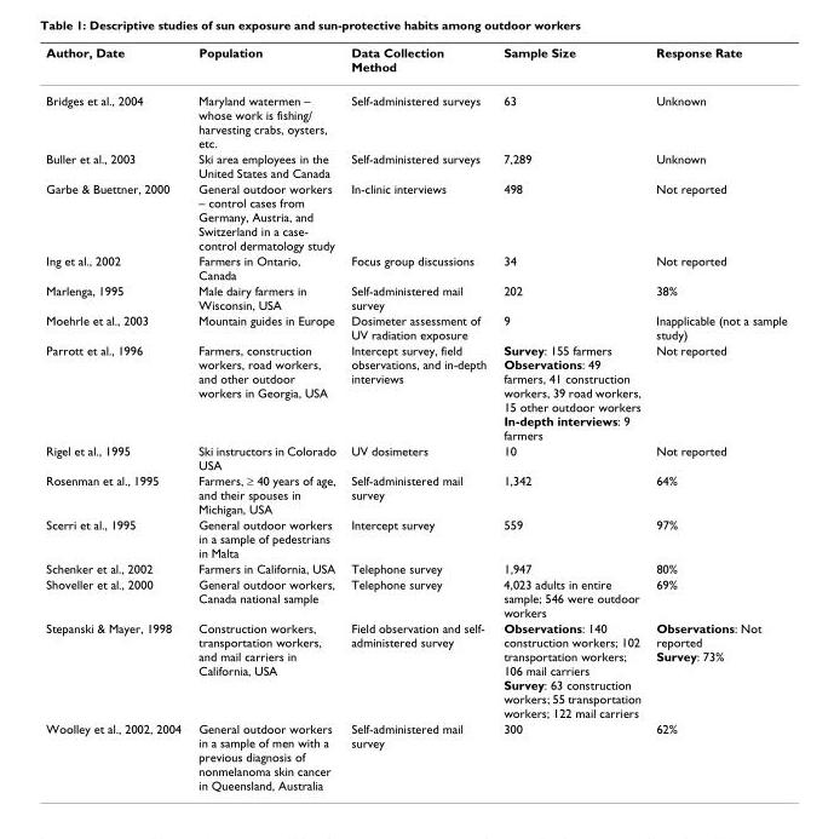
<table><thead><tr><td>Author, Date</td><td>Population</td><td>Data Collection Method</td><td>Sample Size</td><td>Response Rate</td></tr></thead><tbody><tr><td>Bridges et al., 2004</td><td>Maryland watermen – whose work is fishing/ harvesting crabs, oysters, etc.</td><td>Self-administered surveys</td><td>63</td><td>Unknown</td></tr><tr><td>Buller et al., 2003</td><td>Ski area employees in the United States and Canada</td><td>Self-administered surveys</td><td>7,289</td><td>Unknown</td></tr><tr><td>Garbe &amp; Buettner, 2000</td><td>General outdoor workers – control cases from Germany, Austria, and Switzerland in a case- control dermatology study</td><td>In-clinic interviews</td><td>498</td><td>Not reported</td></tr><tr><td>Ing et al., 2002</td><td>Farmers in Ontario, Canada</td><td>Focus group discussions</td><td>34</td><td>Not reported</td></tr><tr><td>Marlenga, 1995</td><td>Male dairy farmers in Wisconsin, USA</td><td>Self-administered mail survey</td><td>202</td><td>38%</td></tr><tr><td>Moehrle et al., 2003</td><td>Mountain guides in Europe</td><td>Dosimeter assessment of UV radiation exposure</td><td>9</td><td>Inapplicable (not a sample study)</td></tr><tr><td>Parrott et al., 1996</td><td>Farmers, construction workers, road workers, and other outdoor workers in Georgia, USA</td><td>Intercept survey, field observations, and in-depth interviews</td><td>Survey: 155 farmers Observations: 49 farmers, 41 construction workers, 39 road workers, 15 other outdoor workers In-depth interviews: 9 farmers</td><td>Not reported</td></tr><tr><td>Rigel et al., 1995</td><td>Ski instructors in Colorado USA</td><td>UV dosimeters</td><td>10</td><td>Not reported</td></tr><tr><td>Rosenman et al., 1995</td><td>Farmers, ≥ 40 years of age, and their spouses in Michigan, USA</td><td>Self-administered mail survey</td><td>1,342</td><td>64%</td></tr><tr><td>Scerri et al., 1995</td><td>General outdoor workers in a sample of pedestrians in Malta</td><td>Intercept survey</td><td>559</td><td>97%</td></tr><tr><td>Schenker et al., 2002</td><td>Farmers in California, USA</td><td>Telephone survey</td><td>1,947</td><td>80%</td></tr><tr><td>Shoveller et al., 2000</td><td>General outdoor workers, Canada national sample</td><td>Telephone survey</td><td>4,023 adults in entire sample; 546 were outdoor workers</td><td>69%</td></tr><tr><td>Stepanski &amp; Mayer, 1998</td><td>Construction workers, transportation workers, and mail carriers in California, USA</td><td>Field observation and self- administered survey</td><td>Observations: 140 construction workers; 102 transportation workers; 106 mail carriers Survey: 63 construction workers; 55 transportation workers; 122 mail carriers</td><td>Observations: Not reported Survey: 73%</td></tr><tr><td>Woolley et al., 2002, 2004</td><td>General outdoor workers in a sample of men with a previous diagnosis of nonmelanoma skin cancer in Queensland, Australia</td><td>Self-administered mail survey</td><td>300</td><td>62%</td></tr></tbody></table>